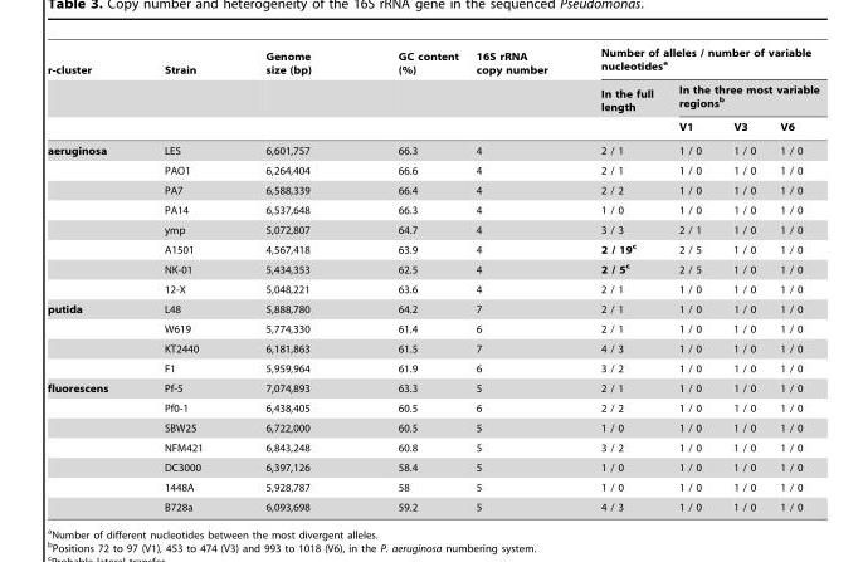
<table><thead><tr><td rowspan="3">r-cluster</td><td rowspan="3">Strain</td><td rowspan="3">Genome size (bp)</td><td rowspan="3">GC content (%)</td><td rowspan="3">16S rRNA copy number</td><td colspan="4">Number of alleles / number of variable nucleotides<sup>a</sup></td></tr><tr><td rowspan="2">In the full length</td><td colspan="3">In the three most variable regions<sup>b</sup></td></tr><tr><td>V1</td><td>V3</td><td>V6</td></tr></thead><tbody><tr><td rowspan="8">aeruginosa</td><td>LES</td><td>6,601,757</td><td>66.3</td><td>4</td><td>2 / 1</td><td>1 / 0</td><td>1 / 0</td><td>1 / 0</td></tr><tr><td>PAO1</td><td>6,264,404</td><td>66.6</td><td>4</td><td>2 / 1</td><td>1 / 0</td><td>1 / 0</td><td>1 / 0</td></tr><tr><td>PA7</td><td>6,588,339</td><td>66.4</td><td>4</td><td>2 / 2</td><td>1 / 0</td><td>1 / 0</td><td>1 / 0</td></tr><tr><td>PA14</td><td>6,537,648</td><td>66.3</td><td>4</td><td>1 / 0</td><td>1 / 0</td><td>1 / 0</td><td>1 / 0</td></tr><tr><td>ymp</td><td>5,072,807</td><td>64.7</td><td>4</td><td>3 / 3</td><td>2 / 1</td><td>1 / 0</td><td>1 / 0</td></tr><tr><td>A1501</td><td>4,567,418</td><td>63.9</td><td>4</td><td>2 / 19c</td><td>2 / 5</td><td>1 / 0</td><td>1 / 0</td></tr><tr><td>NK-01</td><td>5,434,353</td><td>62.5</td><td>4</td><td>2 / 5c</td><td>2 / 5</td><td>1 / 0</td><td>1 / 0</td></tr><tr><td>12-X</td><td>5,048,221</td><td>63.6</td><td>4</td><td>2 / 1</td><td>1 / 0</td><td>1 / 0</td><td>1 / 0</td></tr><tr><td rowspan="4">putida</td><td>L48</td><td>5,888,780</td><td>64.2</td><td>7</td><td>2 / 1</td><td>1 / 0</td><td>1 / 0</td><td>1 / 0</td></tr><tr><td>W619</td><td>5,774,330</td><td>61.4</td><td>6</td><td>2 / 1</td><td>1 / 0</td><td>1 / 0</td><td>1 / 0</td></tr><tr><td>KT2440</td><td>6,181,863</td><td>61.5</td><td>7</td><td>4 / 3</td><td>1 / 0</td><td>1 / 0</td><td>1 / 0</td></tr><tr><td>F1</td><td>5,959,964</td><td>61.9</td><td>6</td><td>3 / 2</td><td>1 / 0</td><td>1 / 0</td><td>1 / 0</td></tr><tr><td rowspan="7">fluorescens</td><td>Pf-5</td><td>7,074,893</td><td>63.3</td><td>5</td><td>2 / 1</td><td>1 / 0</td><td>1 / 0</td><td>1 / 0</td></tr><tr><td>Pf0-1</td><td>6,438,405</td><td>60.5</td><td>6</td><td>2 / 2</td><td>1 / 0</td><td>1 / 0</td><td>1 / 0</td></tr><tr><td>SBW25</td><td>6,722,000</td><td>60.5</td><td>5</td><td>1 / 0</td><td>1 / 0</td><td>1 / 0</td><td>1 / 0</td></tr><tr><td>NFM421</td><td>6,843,248</td><td>60.8</td><td>5</td><td>3 / 2</td><td>1 / 0</td><td>1 / 0</td><td>1 / 0</td></tr><tr><td>DC3000</td><td>6,397,126</td><td>58.4</td><td>5</td><td>1 / 0</td><td>1 / 0</td><td>1 / 0</td><td>1 / 0</td></tr><tr><td>1448A</td><td>5,928,787</td><td>58</td><td>5</td><td>1 / 0</td><td>1 / 0</td><td>1 / 0</td><td>1 / 0</td></tr><tr><td>B728a</td><td>6,093,698</td><td>59.2</td><td>5</td><td>4 / 3</td><td>1 / 0</td><td>1 / 0</td><td>1 / 0</td></tr></tbody></table>